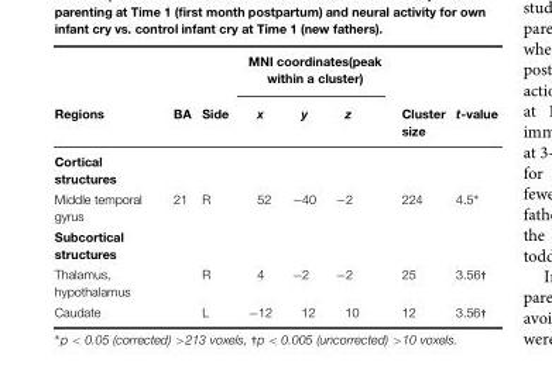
<table><thead><tr><td rowspan="2">Regions</td><td rowspan="2">BA</td><td rowspan="2">Side</td><td colspan="3">MNI coordinates(peak within a cluster)</td><td rowspan="2">Cluster size</td><td rowspan="2">t-value</td></tr><tr><td>x</td><td>y</td><td>z</td></tr></thead><tbody><tr><td colspan="8">Cortical structures</td></tr><tr><td>Middle temporal gyrus</td><td>21</td><td>R</td><td>52</td><td>−40</td><td>−2</td><td>224</td><td>4.5∗</td></tr><tr><td colspan="8">Subcortical structures</td></tr><tr><td>Thalamus, hypothalamus</td><td></td><td>R</td><td>4</td><td>−2</td><td>−2</td><td>25</td><td>3.56†</td></tr><tr><td>Caudate</td><td></td><td>L</td><td>−12</td><td>12</td><td>10</td><td>12</td><td>3.56†</td></tr></tbody></table>